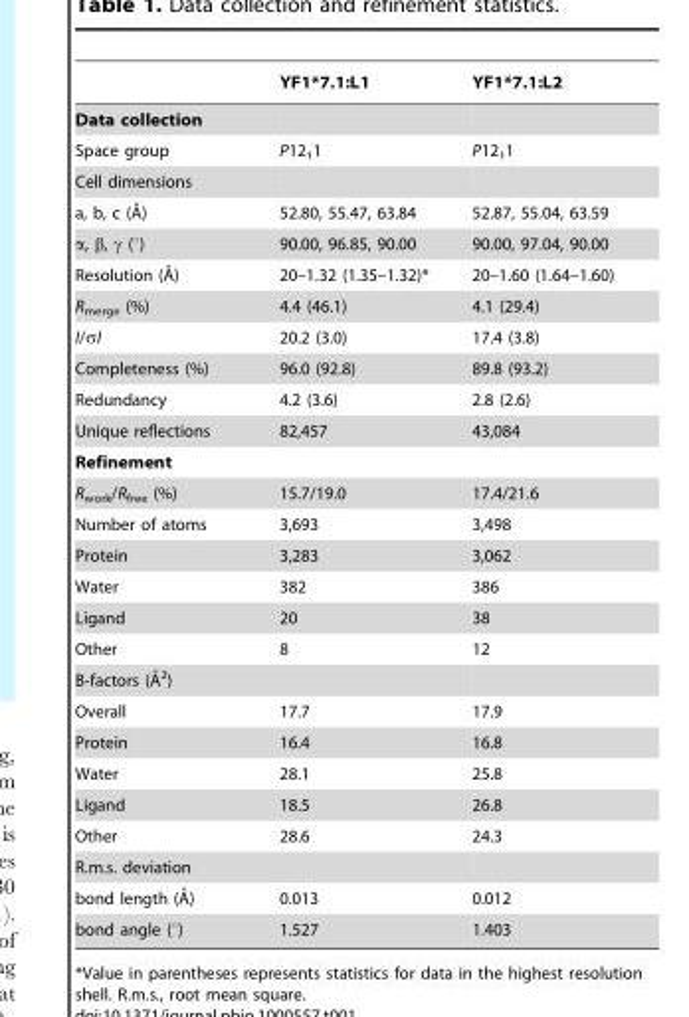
<table><thead><tr><td></td><td>YF1*7.1:L1</td><td>YF1*7.1:L2</td></tr></thead><tbody><tr><td colspan="3">Data collection</td></tr><tr><td>Space group</td><td>P12<sub>1</sub>1</td><td>P12<sub>1</sub>1</td></tr><tr><td colspan="3">Cell dimensions</td></tr><tr><td>a, b, c (A˚)</td><td>52.80, 55.47, 63.84</td><td>52.87, 55.04, 63.59</td></tr><tr><td>α, β, γ (°)</td><td>90.00, 96.85, 90.00</td><td>90.00, 97.04, 90.00</td></tr><tr><td>Resolution (A˚)</td><td>20–1.32 (1.35–1.32)*</td><td>20–1.60 (1.64–1.60)</td></tr><tr><td>R<sub>merge</sub> (%)</td><td>4.4 (46.1)</td><td>4.1 (29.4)</td></tr><tr><td>I/σI</td><td>20.2 (3.0)</td><td>17.4 (3.8)</td></tr><tr><td>Completeness (%)</td><td>96.0 (92.8)</td><td>89.8 (93.2)</td></tr><tr><td>Redundancy</td><td>4.2 (3.6)</td><td>2.8 (2.6)</td></tr><tr><td>Unique reflections</td><td>82,457</td><td>43,084</td></tr><tr><td colspan="3">Refinement</td></tr><tr><td>R<sub>work</sub>/R<sub>free</sub> (%)</td><td>15.7/19.0</td><td>17.4/21.6</td></tr><tr><td>Number of atoms</td><td>3,693</td><td>3,498</td></tr><tr><td>Protein</td><td>3,283</td><td>3,062</td></tr><tr><td>Water</td><td>382</td><td>386</td></tr><tr><td>Ligand</td><td>20</td><td>38</td></tr><tr><td>Other</td><td>8</td><td>12</td></tr><tr><td colspan="3">B-factors (A˚ 2)</td></tr><tr><td>Overall</td><td>17.7</td><td>17.9</td></tr><tr><td>Protein</td><td>16.4</td><td>16.8</td></tr><tr><td>Water</td><td>28.1</td><td>25.8</td></tr><tr><td>Ligand</td><td>18.5</td><td>26.8</td></tr><tr><td>Other</td><td>28.6</td><td>24.3</td></tr><tr><td colspan="3">R.m.s. deviation</td></tr><tr><td>bond length (A˚)</td><td>0.013</td><td>0.012</td></tr><tr><td>bond angle (°)</td><td>1.527</td><td>1.403</td></tr></tbody></table>